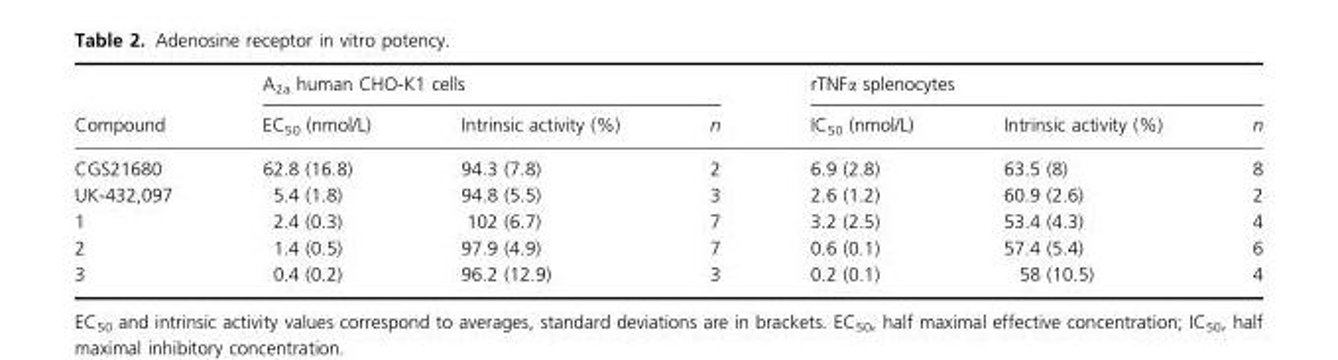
<table><thead><tr><td rowspan="2">Compound</td><td colspan="3">A<sub>2a</sub> human CHO-K1 cells</td><td colspan="3">rTNFα splenocytes</td></tr><tr><td>EC<sub>50</sub> (nmol/L)</td><td>Intrinsic activity (%)</td><td>n</td><td>IC<sub>50</sub> (nmol/L)</td><td>Intrinsic activity (%)</td><td>n</td></tr></thead><tbody><tr><td>CGS21680</td><td>62.8 (16.8)</td><td>94.3 (7.8)</td><td>2</td><td>6.9 (2.8)</td><td>63.5 (8)</td><td>8</td></tr><tr><td>UK-432,097</td><td>5.4 (1.8)</td><td>94.8 (5.5)</td><td>3</td><td>2.6 (1.2)</td><td>60.9 (2.6)</td><td>2</td></tr><tr><td>1</td><td>2.4 (0.3)</td><td>102 (6.7)</td><td>7</td><td>3.2 (2.5)</td><td>53.4 (4.3)</td><td>4</td></tr><tr><td>2</td><td>1.4 (0.5)</td><td>97.9 (4.9)</td><td>7</td><td>0.6 (0.1)</td><td>57.4 (5.4)</td><td>6</td></tr><tr><td>3</td><td>0.4 (0.2)</td><td>96.2 (12.9)</td><td>3</td><td>0.2 (0.1)</td><td>58 (10.5)</td><td>4</td></tr></tbody></table>